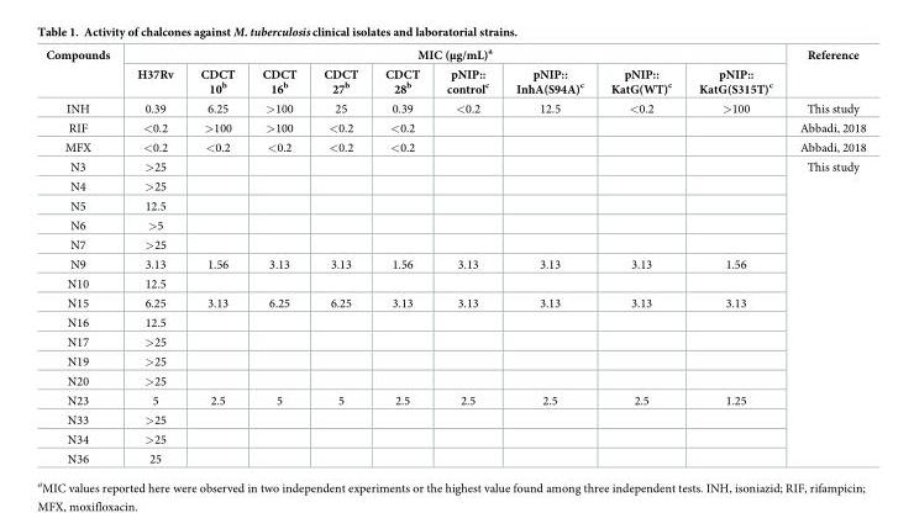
<table><thead><tr><td rowspan="2">Compounds</td><td colspan="9">MIC (μg/mL)<sup>a</sup></td><td rowspan="2">Reference</td></tr><tr><td>H37Rv</td><td>CDCT 10<sup>b</sup></td><td>CDCT 16<sup>b</sup></td><td>CDCT 27<sup>b</sup></td><td>CDCT 28<sup>b</sup></td><td>pNIP:: control<sup>c</sup></td><td>pNIP:: InhA(S94A)<sup>c</sup></td><td>pNIP:: KatG(WT)<sup>c</sup></td><td>pNIP:: KatG(S315T)<sup>c</sup></td></tr></thead><tbody><tr><td>INH</td><td>0.39</td><td>6.25</td><td>&gt;100</td><td>25</td><td>0.39</td><td>&lt;0.2</td><td>12.5</td><td>&lt;0.2</td><td>&gt;100</td><td>This study</td></tr><tr><td>RIF</td><td>&lt;0.2</td><td>&gt;100</td><td>&gt;100</td><td>&lt;0.2</td><td>&lt;0.2</td><td></td><td></td><td></td><td></td><td>Abbadi, 2018</td></tr><tr><td>MFX</td><td>&lt;0.2</td><td>&lt;0.2</td><td>&lt;0.2</td><td>&lt;0.2</td><td>&lt;0.2</td><td></td><td></td><td></td><td></td><td>Abbadi, 2018</td></tr><tr><td>N3</td><td>&gt;25</td><td></td><td></td><td></td><td></td><td></td><td></td><td></td><td></td><td rowspan="16">This study</td></tr><tr><td>N4</td><td>&gt;25</td><td></td><td></td><td></td><td></td><td></td><td></td><td></td><td></td></tr><tr><td>N5</td><td>12.5</td><td></td><td></td><td></td><td></td><td></td><td></td><td></td><td></td></tr><tr><td>N6</td><td>&gt;5</td><td></td><td></td><td></td><td></td><td></td><td></td><td></td><td></td></tr><tr><td>N7</td><td>&gt;25</td><td></td><td></td><td></td><td></td><td></td><td></td><td></td><td></td></tr><tr><td>N9</td><td>3.13</td><td>1.56</td><td>3.13</td><td>3.13</td><td>1.56</td><td>3.13</td><td>3.13</td><td>3.13</td><td>1.56</td></tr><tr><td>N10</td><td>12.5</td><td></td><td></td><td></td><td></td><td></td><td></td><td></td><td></td></tr><tr><td>N15</td><td>6.25</td><td>3.13</td><td>6.25</td><td>6.25</td><td>3.13</td><td>3.13</td><td>3.13</td><td>3.13</td><td>3.13</td></tr><tr><td>N16</td><td>12.5</td><td></td><td></td><td></td><td></td><td></td><td></td><td></td><td></td></tr><tr><td>N17</td><td>&gt;25</td><td></td><td></td><td></td><td></td><td></td><td></td><td></td><td></td></tr><tr><td>N19</td><td>&gt;25</td><td></td><td></td><td></td><td></td><td></td><td></td><td></td><td></td></tr><tr><td>N20</td><td>&gt;25</td><td></td><td></td><td></td><td></td><td></td><td></td><td></td><td></td></tr><tr><td>N23</td><td>5</td><td>2.5</td><td>5</td><td>5</td><td>2.5</td><td>2.5</td><td>2.5</td><td>2.5</td><td>1.25</td></tr><tr><td>N33</td><td>&gt;25</td><td></td><td></td><td></td><td></td><td></td><td></td><td></td><td></td></tr><tr><td>N34</td><td>&gt;25</td><td></td><td></td><td></td><td></td><td></td><td></td><td></td><td></td></tr><tr><td>N36</td><td>25</td><td></td><td></td><td></td><td></td><td></td><td></td><td></td><td></td></tr></tbody></table>